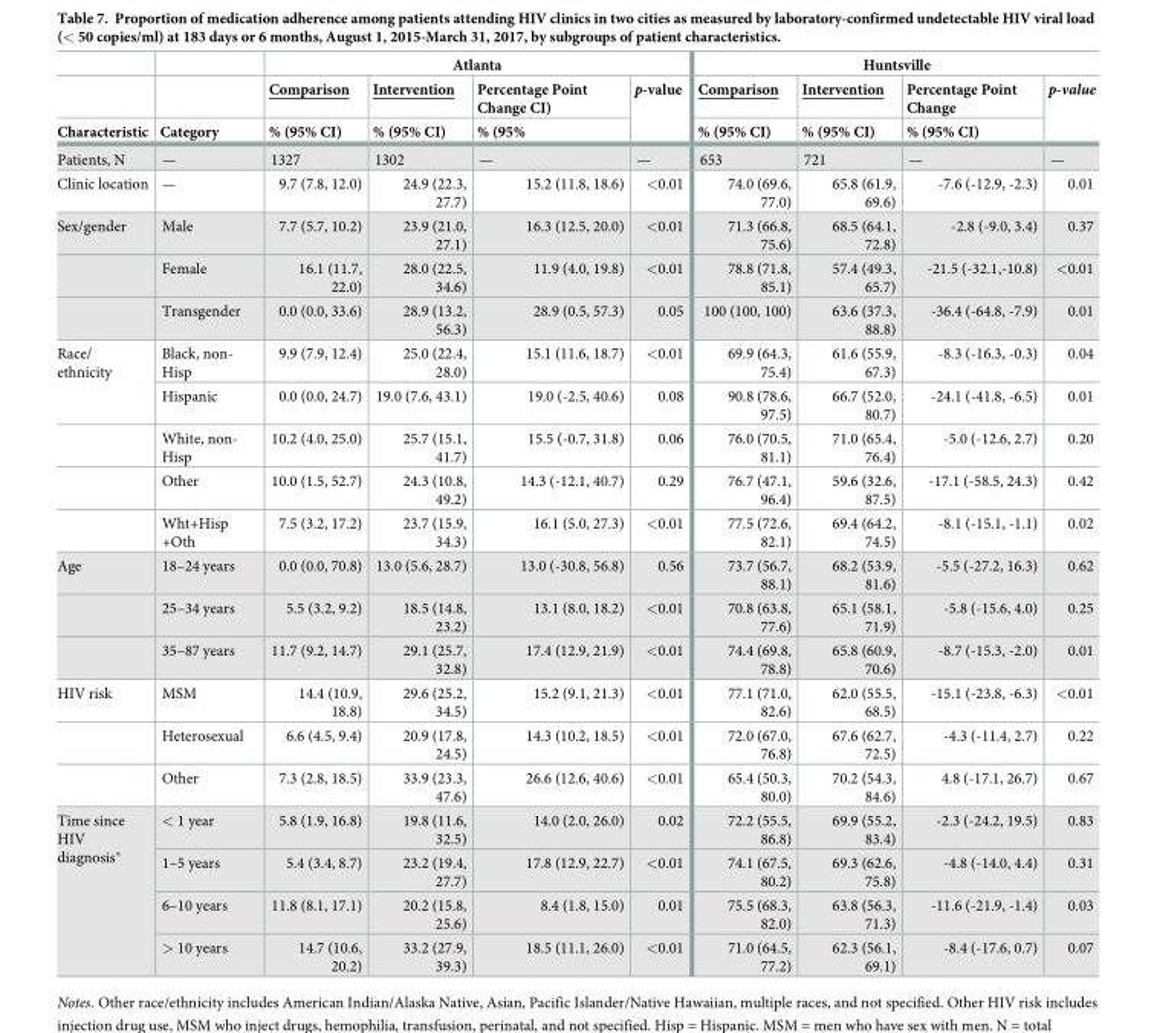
<table><thead><tr><td rowspan="3">Characteristic</td><td rowspan="3">Category</td><td colspan="4">Atlanta</td><td colspan="4">Huntsville</td></tr><tr><td rowspan="2">Comparison % (95% CI)</td><td rowspan="2">Intervention % (95% CI)</td><td rowspan="2">Percentage Point Change CI) % (95%</td><td rowspan="2">p-value</td><td rowspan="2">Comparison % (95% CI)</td><td rowspan="2">Intervention % (95% CI)</td><td rowspan="2">Percentage Point Change % (95% CI)</td><td rowspan="2">p-value</td></tr><tr></tr></thead><tbody><tr><td>Patients, N</td><td>—</td><td>1327</td><td>1302</td><td>—</td><td>—</td><td>653</td><td>721</td><td>—</td><td>—</td></tr><tr><td>Clinic location</td><td>—</td><td>9.7 (7.8, 12.0)</td><td>24.9 (22.3, 27.7)</td><td>15.2 (11.8, 18.6)</td><td>&lt;0.01</td><td>74.0 (69.6, 77.0)</td><td>65.8 (61.9, 69.6)</td><td>-7.6 (-12.9, -2.3)</td><td>0.01</td></tr><tr><td rowspan="3">Sex/gender</td><td>Male</td><td>7.7 (5.7, 10.2)</td><td>23.9 (21.0, 27.1)</td><td>16.3 (12.5, 20.0)</td><td>&lt;0.01</td><td>71.3 (66.8, 75.6)</td><td>68.5 (64.1, 72.8)</td><td>-2.8 (-9.0, 3.4)</td><td>0.37</td></tr><tr><td>Female</td><td>16.1 (11.7, 22.0)</td><td>28.0 (22.5, 34.6)</td><td>11.9 (4.0, 19.8)</td><td>&lt;0.01</td><td>78.8 (71.8, 85.1)</td><td>57.4 (49.3, 65.7)</td><td>-21.5 (-32.1,-10.8)</td><td>&lt;0.01</td></tr><tr><td>Transgender</td><td>0.0 (0.0, 33.6)</td><td>28.9 (13.2, 56.3)</td><td>28.9 (0.5, 57.3)</td><td>0.05</td><td>100 (100, 100)</td><td>63.6 (37.3, 88.8)</td><td>-36.4 (-64.8, -7.9)</td><td>0.01</td></tr><tr><td rowspan="5">Race/ ethnicity</td><td>Black, non- Hisp</td><td>9.9 (7.9, 12.4)</td><td>25.0 (22.4, 28.0)</td><td>15.1 (11.6, 18.7)</td><td>&lt;0.01</td><td>69.9 (64.3, 75.4)</td><td>61.6 (55.9, 67.3)</td><td>-8.3 (-16.3, -0.3)</td><td>0.04</td></tr><tr><td>Hispanic</td><td>0.0 (0.0, 24.7)</td><td>19.0 (7.6, 43.1)</td><td>19.0 (-2.5, 40.6)</td><td>0.08</td><td>90.8 (78.6, 97.5)</td><td>66.7 (52.0, 80.7)</td><td>-24.1 (-41.8, -6.5)</td><td>0.01</td></tr><tr><td>White, non- Hisp</td><td>10.2 (4.0, 25.0)</td><td>25.7 (15.1, 41.7)</td><td>15.5 (-0.7, 31.8)</td><td>0.06</td><td>76.0 (70.5, 81.1)</td><td>71.0 (65.4, 76.4)</td><td>-5.0 (-12.6, 2.7)</td><td>0.20</td></tr><tr><td>Other</td><td>10.0 (1.5, 52.7)</td><td>24.3 (10.8, 49.2)</td><td>14.3 (-12.1, 40.7)</td><td>0.29</td><td>76.7 (47.1, 96.4)</td><td>59.6 (32.6, 87.5)</td><td>-17.1 (-58.5, 24.3)</td><td>0.42</td></tr><tr><td>Wht+Hisp +Oth</td><td>7.5 (3.2, 17.2)</td><td>23.7 (15.9, 34.3)</td><td>16.1 (5.0, 27.3)</td><td>&lt;0.01</td><td>77.5 (72.6, 82.1)</td><td>69.4 (64.2, 74.5)</td><td>-8.1 (-15.1, -1.1)</td><td>0.02</td></tr><tr><td rowspan="3">Age</td><td>18–24 years</td><td>0.0 (0.0, 70.8)</td><td>13.0 (5.6, 28.7)</td><td>13.0 (-30.8, 56.8)</td><td>0.56</td><td>73.7 (56.7, 88.1)</td><td>68.2 (53.9, 81.6)</td><td>-5.5 (-27.2, 16.3)</td><td>0.62</td></tr><tr><td>25–34 years</td><td>5.5 (3.2, 9.2)</td><td>18.5 (14.8, 23.2)</td><td>13.1 (8.0, 18.2)</td><td>&lt;0.01</td><td>70.8 (63.8, 77.6)</td><td>65.1 (58.1, 71.9)</td><td>-5.8 (-15.6, 4.0)</td><td>0.25</td></tr><tr><td>35–87 years</td><td>11.7 (9.2, 14.7)</td><td>29.1 (25.7, 32.8)</td><td>17.4 (12.9, 21.9)</td><td>&lt;0.01</td><td>74.4 (69.8, 78.8)</td><td>65.8 (60.9, 70.6)</td><td>-8.7 (-15.3, -2.0)</td><td>0.01</td></tr><tr><td rowspan="3">HIV risk</td><td>MSM</td><td>14.4 (10.9, 18.8)</td><td>29.6 (25.2, 34.5)</td><td>15.2 (9.1, 21.3)</td><td>&lt;0.01</td><td>77.1 (71.0, 82.6)</td><td>62.0 (55.5, 68.5)</td><td>-15.1 (-23.8, -6.3)</td><td>&lt;0.01</td></tr><tr><td>Heterosexual</td><td>6.6 (4.5, 9.4)</td><td>20.9 (17.8, 24.5)</td><td>14.3 (10.2, 18.5)</td><td>&lt;0.01</td><td>72.0 (67.0, 76.8)</td><td>67.6 (62.7, 72.5)</td><td>-4.3 (-11.4, 2.7)</td><td>0.22</td></tr><tr><td>Other</td><td>7.3 (2.8, 18.5)</td><td>33.9 (23.3, 47.6)</td><td>26.6 (12.6, 40.6)</td><td>&lt;0.01</td><td>65.4 (50.3, 80.0)</td><td>70.2 (54.3, 84.6)</td><td>4.8 (-17.1, 26.7)</td><td>0.67</td></tr><tr><td rowspan="4">Time since HIV diagnosis*</td><td>&lt; 1 year</td><td>5.8 (1.9, 16.8)</td><td>19.8 (11.6, 32.5)</td><td>14.0 (2.0, 26.0)</td><td>0.02</td><td>72.2 (55.5, 86.8)</td><td>69.9 (55.2, 83.4)</td><td>-2.3 (-24.2, 19.5)</td><td>0.83</td></tr><tr><td>1–5 years</td><td>5.4 (3.4, 8.7)</td><td>23.2 (19.4, 27.7)</td><td>17.8 (12.9, 22.7)</td><td>&lt;0.01</td><td>74.1 (67.5, 80.2)</td><td>69.3 (62.6, 75.8)</td><td>-4.8 (-14.0, 4.4)</td><td>0.31</td></tr><tr><td>6–10 years</td><td>11.8 (8.1, 17.1)</td><td>20.2 (15.8, 25.6)</td><td>8.4 (1.8, 15.0)</td><td>0.01</td><td>75.5 (68.3, 82.0)</td><td>63.8 (56.3, 71.3)</td><td>-11.6 (-21.9, -1.4)</td><td>0.03</td></tr><tr><td>&gt; 10 years</td><td>14.7 (10.6, 20.2)</td><td>33.2 (27.9, 39.3)</td><td>18.5 (11.1, 26.0)</td><td>&lt;0.01</td><td>71.0 (64.5, 77.2)</td><td>62.3 (56.1, 69.1)</td><td>-8.4 (-17.6, 0.7)</td><td>0.07</td></tr></tbody></table>